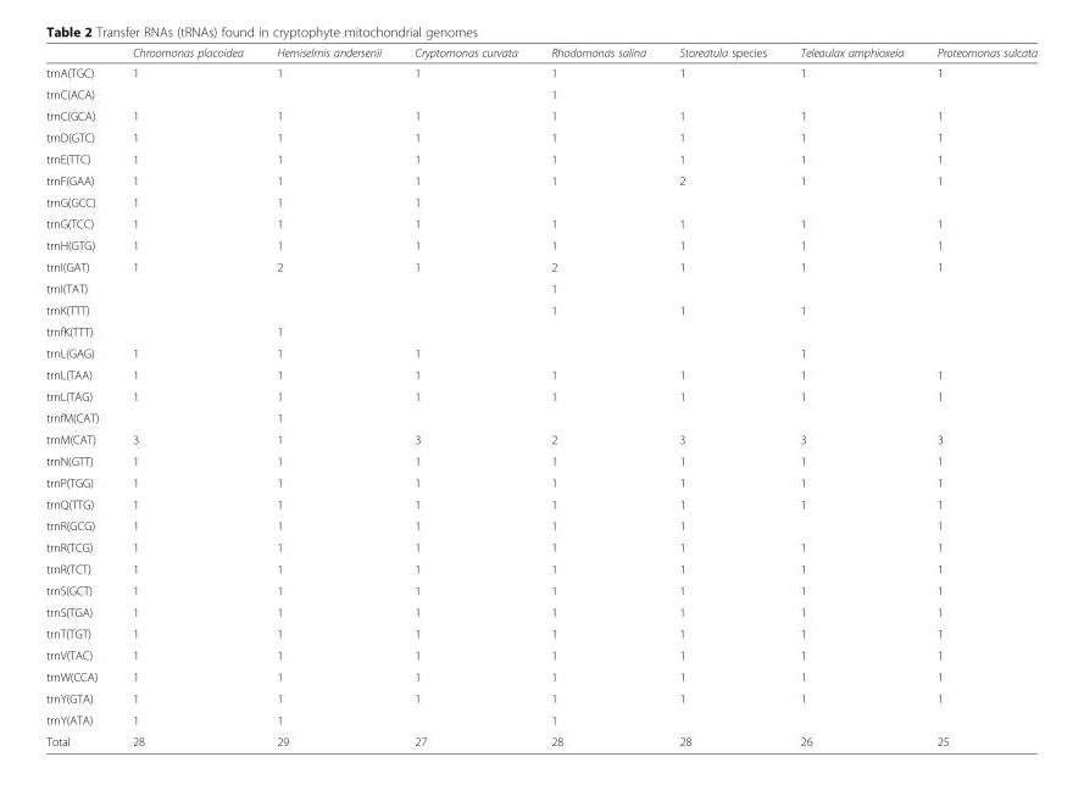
<table><thead><tr><td></td><td>Chroomonas placoidea</td><td>Hemiselmis andersenii</td><td>Cryptomonas curvata</td><td>Rhodomonas salina</td><td>Storeatula species</td><td>Teleaulax amphioxeia</td><td>Proteomonas sulcata</td></tr></thead><tbody><tr><td>trnA(TGC)</td><td>1</td><td>1</td><td>1</td><td>1</td><td>1</td><td>1</td><td>1</td></tr><tr><td>trnC(ACA)</td><td></td><td></td><td></td><td>1</td><td></td><td></td><td></td></tr><tr><td>trnC(GCA)</td><td>1</td><td>1</td><td>1</td><td>1</td><td>1</td><td>1</td><td>1</td></tr><tr><td>trnD(GTC)</td><td>1</td><td>1</td><td>1</td><td>1</td><td>1</td><td>1</td><td>1</td></tr><tr><td>trnE(TTC)</td><td>1</td><td>1</td><td>1</td><td>1</td><td>1</td><td>1</td><td>1</td></tr><tr><td>trnF(GAA)</td><td>1</td><td>1</td><td>1</td><td>1</td><td>2</td><td>1</td><td>1</td></tr><tr><td>trnG(GCC)</td><td>1</td><td>1</td><td>1</td><td></td><td></td><td></td><td></td></tr><tr><td>trnG(TCC)</td><td>1</td><td>1</td><td>1</td><td>1</td><td>1</td><td>1</td><td>1</td></tr><tr><td>trnH(GTG)</td><td>1</td><td>1</td><td>1</td><td>1</td><td>1</td><td>1</td><td>1</td></tr><tr><td>trnI(GAT)</td><td>1</td><td>2</td><td>1</td><td>2</td><td>1</td><td>1</td><td>1</td></tr><tr><td>trnI(TAT)</td><td></td><td></td><td></td><td>1</td><td></td><td></td><td></td></tr><tr><td>trnK(TTT)</td><td></td><td></td><td></td><td>1</td><td>1</td><td>1</td><td></td></tr><tr><td>trnfK(TTT)</td><td></td><td>1</td><td></td><td></td><td></td><td></td><td></td></tr><tr><td>trnL(GAG)</td><td>1</td><td>1</td><td>1</td><td></td><td></td><td>1</td><td></td></tr><tr><td>trnL(TAA)</td><td>1</td><td>1</td><td>1</td><td>1</td><td>1</td><td>1</td><td>1</td></tr><tr><td>trnL(TAG)</td><td>1</td><td>1</td><td>1</td><td>1</td><td>1</td><td>1</td><td>1</td></tr><tr><td>trnfM(CAT)</td><td></td><td>1</td><td></td><td></td><td></td><td></td><td></td></tr><tr><td>trnM(CAT)</td><td>3</td><td>1</td><td>3</td><td>2</td><td>3</td><td>3</td><td>3</td></tr><tr><td>trnN(GTT)</td><td>1</td><td>1</td><td>1</td><td>1</td><td>1</td><td>1</td><td>1</td></tr><tr><td>trnP(TGG)</td><td>1</td><td>1</td><td>1</td><td>1</td><td>1</td><td>1</td><td>1</td></tr><tr><td>trnQ(TTG)</td><td>1</td><td>1</td><td>1</td><td>1</td><td>1</td><td>1</td><td>1</td></tr><tr><td>trnR(GCG)</td><td>1</td><td>1</td><td>1</td><td>1</td><td>1</td><td></td><td>1</td></tr><tr><td>trnR(TCG)</td><td>1</td><td>1</td><td>1</td><td>1</td><td>1</td><td>1</td><td>1</td></tr><tr><td>trnR(TCT)</td><td>1</td><td>1</td><td>1</td><td>1</td><td>1</td><td>1</td><td>1</td></tr><tr><td>trnS(GCT)</td><td>1</td><td>1</td><td>1</td><td>1</td><td>1</td><td>1</td><td>1</td></tr><tr><td>trnS(TGA)</td><td>1</td><td>1</td><td>1</td><td>1</td><td>1</td><td>1</td><td>1</td></tr><tr><td>trnT(TGT)</td><td>1</td><td>1</td><td>1</td><td>1</td><td>1</td><td>1</td><td>1</td></tr><tr><td>trnV(TAC)</td><td>1</td><td>1</td><td>1</td><td>1</td><td>1</td><td>1</td><td>1</td></tr><tr><td>trnW(CCA)</td><td>1</td><td>1</td><td>1</td><td>1</td><td>1</td><td>1</td><td>1</td></tr><tr><td>trnY(GTA)</td><td>1</td><td>1</td><td>1</td><td>1</td><td>1</td><td>1</td><td>1</td></tr><tr><td>trnY(ATA)</td><td>1</td><td>1</td><td></td><td>1</td><td></td><td></td><td></td></tr><tr><td>Total</td><td>28</td><td>29</td><td>27</td><td>28</td><td>28</td><td>26</td><td>25</td></tr></tbody></table>